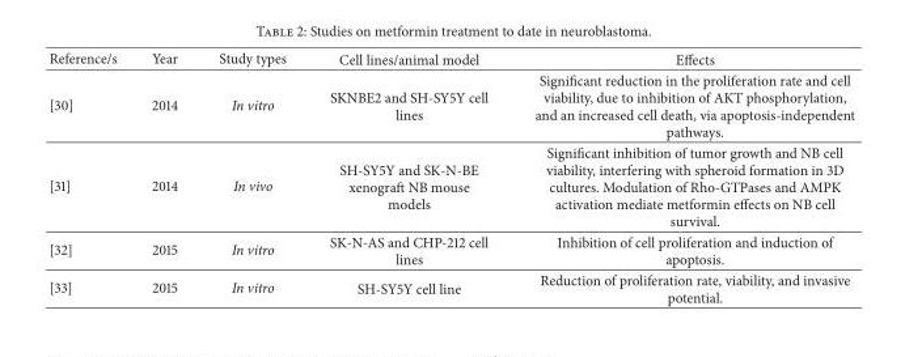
<table><thead><tr><td>Reference/s</td><td>Year</td><td>Study types</td><td>Cell lines/animal model</td><td>Effects</td></tr></thead><tbody><tr><td>[30]</td><td>2014</td><td>In vitro</td><td>SKNBE2 and SH-SY5Y cell lines</td><td>Significant reduction in the proliferation rate and cell viability, due to inhibition of AKT phosphorylation, and an increased cell death, via apoptosis-independent pathways.</td></tr><tr><td>[31]</td><td>2014</td><td>In vivo</td><td>SH-SY5Y and SK-N-BE xenograft NB mouse models</td><td>Significant inhibition of tumor growth and NB cell viability, interfering with spheroid formation in 3D cultures. Modulation of Rho-GTPases and AMPK activation mediate metformin effects on NB cell survival.</td></tr><tr><td>[32]</td><td>2015</td><td>In vitro</td><td>SK-N-AS and CHP-212 cell lines</td><td>Inhibition of cell proliferation and induction of apoptosis.</td></tr><tr><td>[33]</td><td>2015</td><td>In vitro</td><td>SH-SY5Y cell line</td><td>Reduction of proliferation rate, viability, and invasive potential.</td></tr></tbody></table>